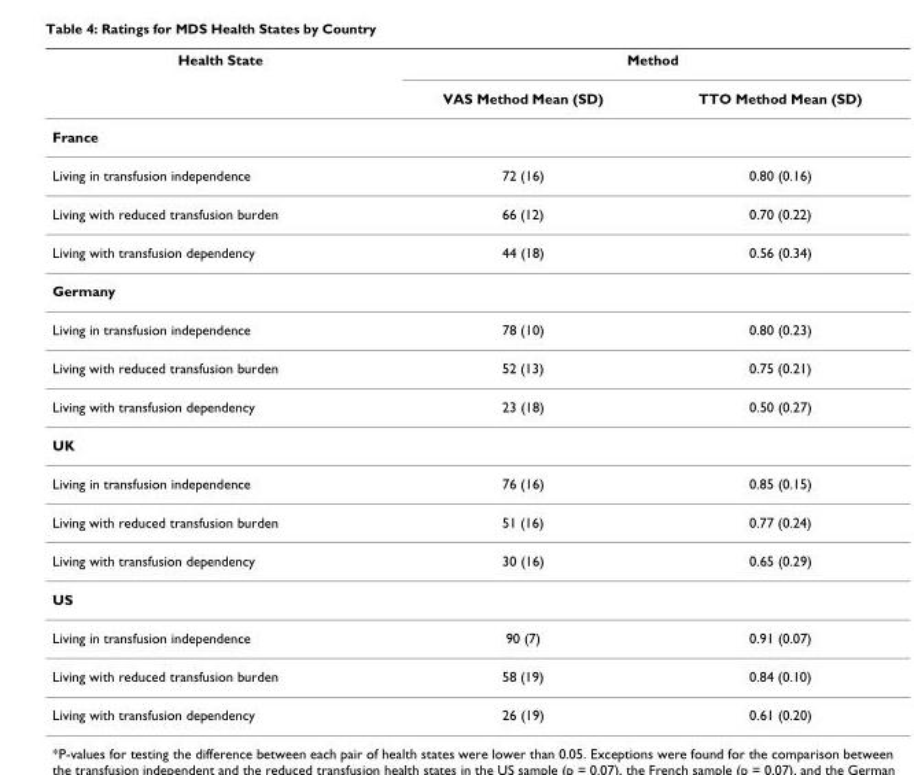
<table><thead><tr><td rowspan="2">Health State</td><td colspan="2">Method</td></tr><tr><td>VAS Method Mean (SD)</td><td>TTO Method Mean (SD)</td></tr></thead><tbody><tr><td colspan="3">France</td></tr><tr><td>Living in transfusion independence</td><td>72 (16)</td><td>0.80 (0.16)</td></tr><tr><td>Living with reduced transfusion burden</td><td>66 (12)</td><td>0.70 (0.22)</td></tr><tr><td>Living with transfusion dependency</td><td>44 (18)</td><td>0.56 (0.34)</td></tr><tr><td colspan="3">Germany</td></tr><tr><td>Living in transfusion independence</td><td>78 (10)</td><td>0.80 (0.23)</td></tr><tr><td>Living with reduced transfusion burden</td><td>52 (13)</td><td>0.75 (0.21)</td></tr><tr><td>Living with transfusion dependency</td><td>23 (18)</td><td>0.50 (0.27)</td></tr><tr><td colspan="3">UK</td></tr><tr><td>Living in transfusion independence</td><td>76 (16)</td><td>0.85 (0.15)</td></tr><tr><td>Living with reduced transfusion burden</td><td>51 (16)</td><td>0.77 (0.24)</td></tr><tr><td>Living with transfusion dependency</td><td>30 (16)</td><td>0.65 (0.29)</td></tr><tr><td colspan="3">US</td></tr><tr><td>Living in transfusion independence</td><td>90 (7)</td><td>0.91 (0.07)</td></tr><tr><td>Living with reduced transfusion burden</td><td>58 (19)</td><td>0.84 (0.10)</td></tr><tr><td>Living with transfusion dependency</td><td>26 (19)</td><td>0.61 (0.20)</td></tr></tbody></table>